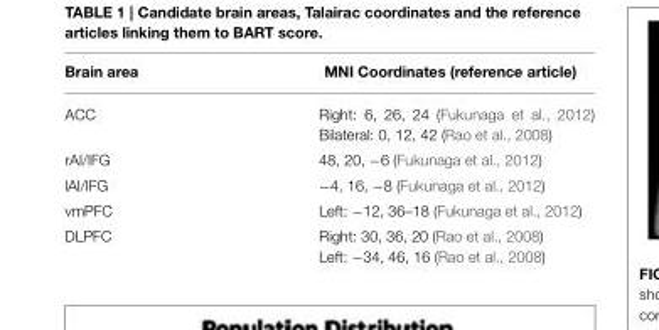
<table><thead><tr><td>Brain area</td><td>MNI Coordinates (reference article)</td></tr></thead><tbody><tr><td>ACC</td><td>Right: 6, 26, 24 (Fukunaga et al., 2012) Bilateral: 0, 12, 42 (Rao et al., 2008)</td></tr><tr><td>rAI/IFG</td><td>48, 20, −6 (Fukunaga et al., 2012)</td></tr><tr><td>lAI/IFG</td><td>−4, 16, −8 (Fukunaga et al., 2012)</td></tr><tr><td>vmPFC</td><td>Left: −12, 36–18 (Fukunaga et al., 2012)</td></tr><tr><td>DLPFC</td><td>Right: 30, 36, 20 (Rao et al., 2008) Left: −34, 46, 16 (Rao et al., 2008)</td></tr></tbody></table>